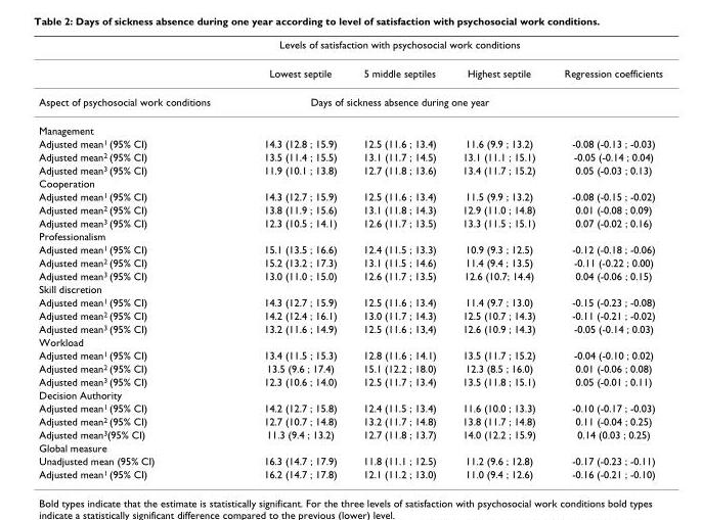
<table><thead><tr><td rowspan="2"></td><td colspan="3">Levels of satisfaction with psychosocial work conditions</td><td rowspan="2">Regression coefficients</td></tr><tr><td>Lowest septile</td><td>5 middle septiles</td><td>Highest septile</td></tr></thead><tbody><tr><td>Aspect of psychosocial work conditions</td><td colspan="3">Days of sickness absence during one year</td><td></td></tr><tr><td colspan="5">Management</td></tr><tr><td>Adjusted mean<sup>1</sup> (95% CI)</td><td>14.3 (12.8 ; 15.9)</td><td>12.5 (11.6 ; 13.4)</td><td>11.6 (9.9 ; 13.2)</td><td>-0.08 (-0.13 ; -0.03)</td></tr><tr><td>Adjusted mean<sup>2</sup> (95% CI)</td><td>13.5 (11.4 ; 15.5)</td><td>13.1 (11.7 ; 14.5)</td><td>13.1 (11.1 ; 15.1)</td><td>-0.05 (-0.14 ; 0.04)</td></tr><tr><td>Adjusted mean<sup>3</sup> (95% CI)</td><td>11.9 (10.1 ; 13.8)</td><td>12.7 (11.8 ; 13.6)</td><td>13.4 (11.7 ; 15.2)</td><td>0.05 (-0.03 ; 0.13)</td></tr><tr><td colspan="5">Cooperation</td></tr><tr><td>Adjusted mean<sup>1</sup> (95% CI)</td><td>14.3 (12.7 ; 15.9)</td><td>12.5 (11.6 ; 13.4)</td><td>11.5 (9.9 ; 13.2)</td><td>-0.08 (-0.15 ; -0.02)</td></tr><tr><td>Adjusted mean<sup>2</sup> (95% CI)</td><td>13.8 (11.9 ; 15.6)</td><td>13.1 (11.8 ; 14.3)</td><td>12.9 (11.0 ; 14.8)</td><td>0.01 (-0.08 ; 0.09)</td></tr><tr><td>Adjusted mean<sup>3</sup> (95% CI)</td><td>12.3 (10.5 ; 14.1)</td><td>12.6 (11.7 ; 13.5)</td><td>13.3 (11.5 ; 15.1)</td><td>0.07 (-0.02 ; 0.16)</td></tr><tr><td colspan="5">Professionalism</td></tr><tr><td>Adjusted mean<sup>1</sup> (95% CI)</td><td>15.1 (13.5 ; 16.6)</td><td>12.4 (11.5 ; 13.3)</td><td>10.9 (9.3 ; 12.5)</td><td>-0.12 (-0.18 ; -0.06)</td></tr><tr><td>Adjusted mean<sup>2</sup> (95% CI)</td><td>15.2 (13.2 ; 17.3)</td><td>13.1 (11.5 ; 14.6)</td><td>11.4 (9.4 ; 13.5)</td><td>-0.11 (-0.22 ; 0.00)</td></tr><tr><td>Adjusted mean<sup>3</sup> (95% CI)</td><td>13.0 (11.0 ; 15.0)</td><td>12.6 (11.7 ; 13.5)</td><td>12.6 (10.7; 14.4)</td><td>0.04 (-0.06 ; 0.15)</td></tr><tr><td colspan="5">Skill discretion</td></tr><tr><td>Adjusted mean<sup>1</sup> (95% CI)</td><td>14.3 (12.7 ; 15.9)</td><td>12.5 (11.6 ; 13.4)</td><td>11.4 (9.7 ; 13.0)</td><td>-0.15 (-0.23 ; -0.08)</td></tr><tr><td>Adjusted mean<sup>2</sup> (95% CI)</td><td>14.2 (12.4 ; 16.1)</td><td>13.0 (11.7 ; 14.3)</td><td>12.5 (10.7 ; 14.3)</td><td>-0.11 (-0.21 ; -0.02)</td></tr><tr><td>Adjusted mean<sup>3</sup> (95% CI)</td><td>13.2 (11.6 ; 14.9)</td><td>12.5 (11.6 ; 13,4)</td><td>12.6 (10.9 ; 14.3)</td><td>-0.05 (-0.14 ; 0.03)</td></tr><tr><td colspan="5">Workload</td></tr><tr><td>Adjusted mean<sup>1</sup> (95% CI)</td><td>13.4 (11.5 ; 15.3)</td><td>12.8 (11.6 ; 14.1)</td><td>13.5 (11.7 ; 15.2)</td><td>-0.04 (-0.10 ; 0.02)</td></tr><tr><td>Adjusted mean<sup>2</sup> (95% CI)</td><td>13.5 (9.6 ; 17.4)</td><td>15.1 (12.2 ; 18.0)</td><td>12.3 (8.5 ; 16.0)</td><td>0.01 (-0.06 ; 0.08)</td></tr><tr><td>Adjusted mean<sup>3</sup> (95% CI)</td><td>12.3 (10.6 ; 14.0)</td><td>12.5 (11.7 ; 13.4)</td><td>13.5 (11.8 ; 15.1)</td><td>0.05 (-0.01 ; 0.11)</td></tr><tr><td colspan="5">Decision Authority</td></tr><tr><td>Adjusted mean<sup>1</sup> (95% CI)</td><td>14.2 (12.7 ; 15.8)</td><td>12.4 (11.5 ; 13.4)</td><td>11.6 (10.0 ; 13.3)</td><td>-0.10 (-0.17 ; -0.03)</td></tr><tr><td>Adjusted mean<sup>2</sup> (95% CI)</td><td>12.7 (10.7 ; 14.8)</td><td>13.2 (11.7 ; 14.8)</td><td>13.8 (11.7 ; 14.8)</td><td>0.11 (-0.04 ; 0.25)</td></tr><tr><td>Adjusted mean<sup>3</sup>(95% CI)</td><td>11.3 (9.4 ; 13.2)</td><td>12.7 (11.8 ; 13.7)</td><td>14.0 (12.2 ; 15.9)</td><td>0.14 (0.03 ; 0.25)</td></tr><tr><td colspan="5">Global measure</td></tr><tr><td>Unadjusted mean (95% CI)</td><td>16.3 (14.7 ; 17.9)</td><td>11.8 (11.1 ; 12.5)</td><td>11.2 (9.6 ; 12.8)</td><td>-0.17 (-0.23 ; -0.11)</td></tr><tr><td>Adjusted mean<sup>1</sup> (95% CI)</td><td>16.2 (14.7 ; 17.8)</td><td>12.1 (11.2 ; 13.0)</td><td>11.0 (9.4 ; 12.6)</td><td>-0.16 (-0.21 ; -0.10)</td></tr></tbody></table>